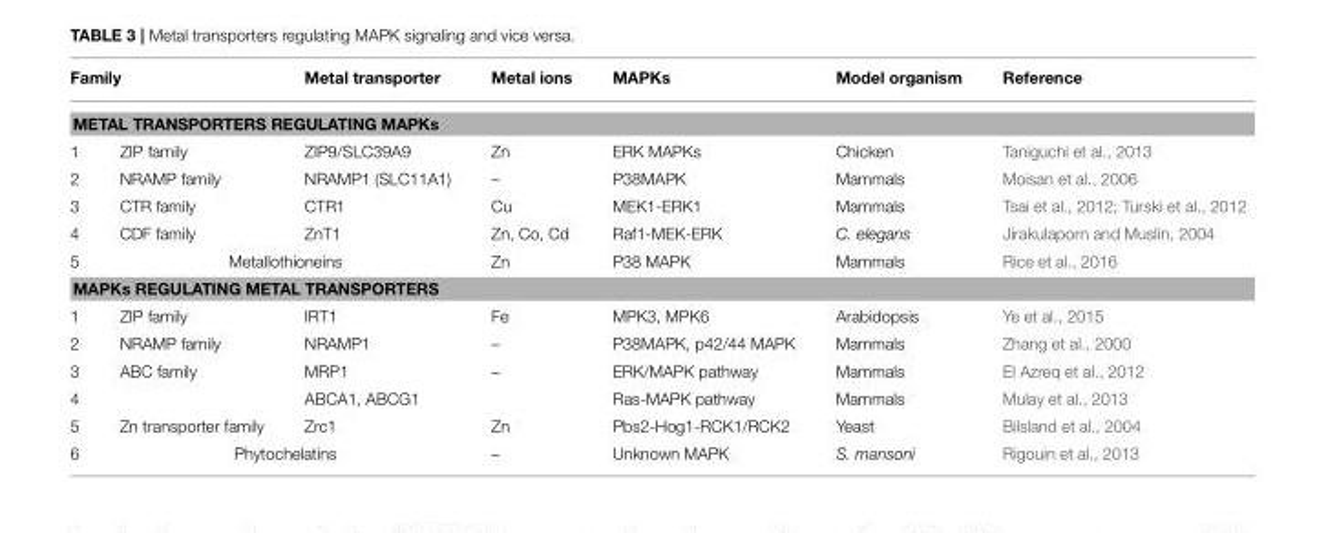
<table><thead><tr><td colspan="2">Family</td><td>Metal transporter</td><td>Metal ions</td><td>MAPKs</td><td>Model organism</td><td>Reference</td></tr><tr><td colspan="7">METAL TRANSPORTERS REGULATING MAPKs</td></tr><tr><td>1</td><td>ZIP family</td><td>ZIP9/SLC39A9</td><td>Zn</td><td>ERK MAPKs</td><td>Chicken</td><td>Taniguchi et al., 2013</td></tr></thead><tbody><tr><td>2</td><td>NRAMP family</td><td>NRAMP1 (SLC11A1)</td><td>–</td><td>P38MAPK</td><td>Mammals</td><td>Moisan et al., 2006</td></tr><tr><td>3</td><td>CTR family</td><td>CTR1</td><td>Cu</td><td>MEK1-ERK1</td><td>Mammals</td><td>Tsai et al., 2012; Turski et al., 2012</td></tr><tr><td>4</td><td>CDF family</td><td>ZnT1</td><td>Zn, Co, Cd</td><td>Raf1-MEK-ERK</td><td>C. elegans</td><td>Jirakulaporn and Muslin, 2004</td></tr><tr><td>5</td><td colspan="2">Metallothioneins</td><td>Zn</td><td>P38 MAPK</td><td>Mammals</td><td>Rice et al., 2016</td></tr><tr><td colspan="7">MAPKs REGULATING METAL TRANSPORTERS</td></tr><tr><td>1</td><td>ZIP family</td><td>IRT1</td><td>Fe</td><td>MPK3, MPK6</td><td>Arabidopsis</td><td>Ye et al., 2015</td></tr><tr><td>2</td><td>NRAMP family</td><td>NRAMP1</td><td>–</td><td>P38MAPK, p42/44 MAPK</td><td>Mammals</td><td>Zhang et al., 2000</td></tr><tr><td>3</td><td>ABC family</td><td>MRP1</td><td>–</td><td>ERK/MAPK pathway</td><td>Mammals</td><td>El Azreq et al., 2012</td></tr><tr><td>4</td><td></td><td>ABCA1, ABCG1</td><td></td><td>Ras-MAPK pathway</td><td>Mammals</td><td>Mulay et al., 2013</td></tr><tr><td>5</td><td>Zn transporter family</td><td>Zrc1</td><td>Zn</td><td>Pbs2-Hog1-RCK1/RCK2</td><td>Yeast</td><td>Bilsland et al., 2004</td></tr><tr><td>6</td><td colspan="2">Phytochelatins</td><td>–</td><td>Unknown MAPK</td><td>S. mansoni</td><td>Rigouin et al., 2013</td></tr></tbody></table>